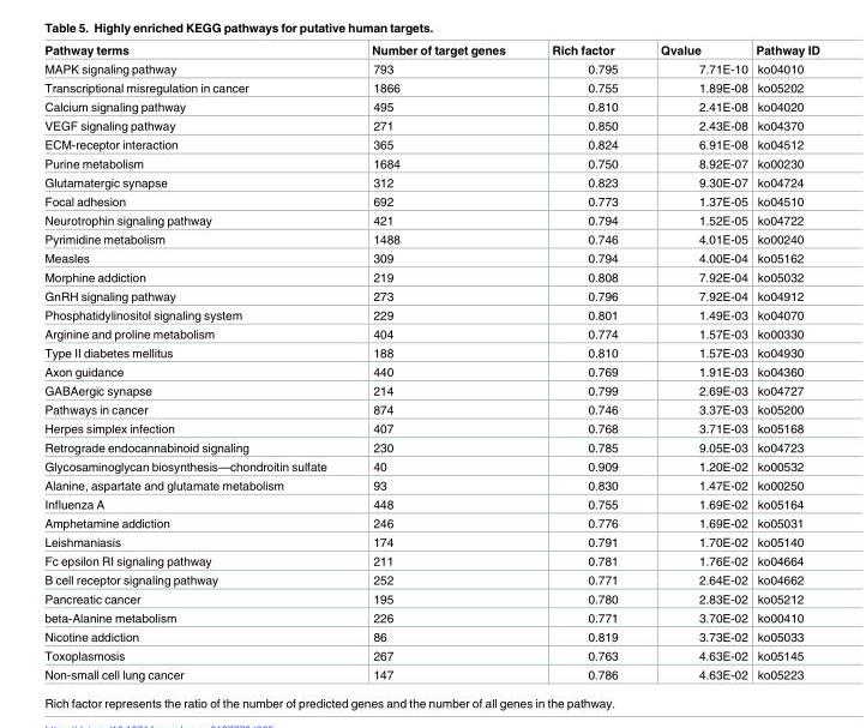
<table><thead><tr><td>Pathway terms</td><td>Number of target genes</td><td>Rich factor</td><td>Qvalue</td><td>Pathway ID</td></tr></thead><tbody><tr><td>MAPK signaling pathway</td><td>793</td><td>0.795</td><td>7.71E-10</td><td>ko04010</td></tr><tr><td>Transcriptional misregulation in cancer</td><td>1866</td><td>0.755</td><td>1.89E-08</td><td>ko05202</td></tr><tr><td>Calcium signaling pathway</td><td>495</td><td>0.810</td><td>2.41E-08</td><td>ko04020</td></tr><tr><td>VEGF signaling pathway</td><td>271</td><td>0.850</td><td>2.43E-08</td><td>ko04370</td></tr><tr><td>ECM-receptor interaction</td><td>365</td><td>0.824</td><td>6.91E-08</td><td>ko04512</td></tr><tr><td>Purine metabolism</td><td>1684</td><td>0.750</td><td>8.92E-07</td><td>ko00230</td></tr><tr><td>Glutamatergic synapse</td><td>312</td><td>0.823</td><td>9.30E-07</td><td>ko04724</td></tr><tr><td>Focal adhesion</td><td>692</td><td>0.773</td><td>1.37E-05</td><td>ko04510</td></tr><tr><td>Neurotrophin signaling pathway</td><td>421</td><td>0.794</td><td>1.52E-05</td><td>ko04722</td></tr><tr><td>Pyrimidine metabolism</td><td>1488</td><td>0.746</td><td>4.01E-05</td><td>ko00240</td></tr><tr><td>Measles</td><td>309</td><td>0.794</td><td>4.00E-04</td><td>ko05162</td></tr><tr><td>Morphine addiction</td><td>219</td><td>0.808</td><td>7.92E-04</td><td>ko05032</td></tr><tr><td>GnRH signaling pathway</td><td>273</td><td>0.796</td><td>7.92E-04</td><td>ko04912</td></tr><tr><td>Phosphatidylinositol signaling system</td><td>229</td><td>0.801</td><td>1.49E-03</td><td>ko04070</td></tr><tr><td>Arginine and proline metabolism</td><td>404</td><td>0.774</td><td>1.57E-03</td><td>ko00330</td></tr><tr><td>Type II diabetes mellitus</td><td>188</td><td>0.810</td><td>1.57E-03</td><td>ko04930</td></tr><tr><td>Axon guidance</td><td>440</td><td>0.769</td><td>1.91E-03</td><td>ko04360</td></tr><tr><td>GABAergic synapse</td><td>214</td><td>0.799</td><td>2.69E-03</td><td>ko04727</td></tr><tr><td>Pathways in cancer</td><td>874</td><td>0.746</td><td>3.37E-03</td><td>ko05200</td></tr><tr><td>Herpes simplex infection</td><td>407</td><td>0.768</td><td>3.71E-03</td><td>ko05168</td></tr><tr><td>Retrograde endocannabinoid signaling</td><td>230</td><td>0.785</td><td>9.05E-03</td><td>ko04723</td></tr><tr><td>Glycosaminoglycan biosynthesis—chondroitin sulfate</td><td>40</td><td>0.909</td><td>1.20E-02</td><td>ko00532</td></tr><tr><td>Alanine, aspartate and glutamate metabolism</td><td>93</td><td>0.830</td><td>1.47E-02</td><td>ko00250</td></tr><tr><td>Influenza A</td><td>448</td><td>0.755</td><td>1.69E-02</td><td>ko05164</td></tr><tr><td>Amphetamine addiction</td><td>246</td><td>0.776</td><td>1.69E-02</td><td>ko05031</td></tr><tr><td>Leishmaniasis</td><td>174</td><td>0.791</td><td>1.70E-02</td><td>ko05140</td></tr><tr><td>Fc epsilon RI signaling pathway</td><td>211</td><td>0.781</td><td>1.76E-02</td><td>ko04664</td></tr><tr><td>B cell receptor signaling pathway</td><td>252</td><td>0.771</td><td>2.64E-02</td><td>ko04662</td></tr><tr><td>Pancreatic cancer</td><td>195</td><td>0.780</td><td>2.83E-02</td><td>ko05212</td></tr><tr><td>beta-Alanine metabolism</td><td>226</td><td>0.771</td><td>3.70E-02</td><td>ko00410</td></tr><tr><td>Nicotine addiction</td><td>86</td><td>0.819</td><td>3.73E-02</td><td>ko05033</td></tr><tr><td>Toxoplasmosis</td><td>267</td><td>0.763</td><td>4.63E-02</td><td>ko05145</td></tr><tr><td>Non-small cell lung cancer</td><td>147</td><td>0.786</td><td>4.63E-02</td><td>ko05223</td></tr></tbody></table>